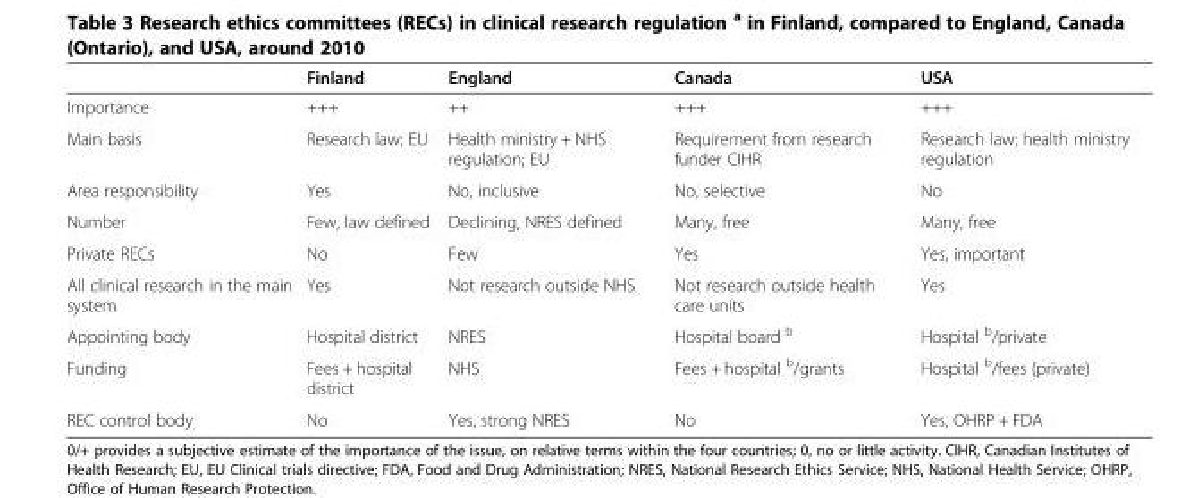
<table><thead><tr><td></td><td>Finland</td><td>England</td><td>Canada</td><td>USA</td></tr></thead><tbody><tr><td>Importance</td><td>+++</td><td>++</td><td>+++</td><td>+++</td></tr><tr><td>Main basis</td><td>Research law; EU</td><td>Health ministry + NHS regulation; EU</td><td>Requirement from research funder CIHR</td><td>Research law; health ministry regulation</td></tr><tr><td>Area responsibility</td><td>Yes</td><td>No, inclusive</td><td>No, selective</td><td>No</td></tr><tr><td>Number</td><td>Few, law defined</td><td>Declining, NRES defined</td><td>Many, free</td><td>Many, free</td></tr><tr><td>Private RECs</td><td>No</td><td>Few</td><td>Yes</td><td>Yes, important</td></tr><tr><td>All clinical research in the main system</td><td>Yes</td><td>Not research outside NHS</td><td>Not research outside health care units</td><td>Yes</td></tr><tr><td>Appointing body</td><td>Hospital district</td><td>NRES</td><td>Hospital board <sup>b</sup></td><td>Hospital <sup>b</sup>/private</td></tr><tr><td>Funding</td><td>Fees + hospital district</td><td>NHS</td><td>Fees + hospital <sup>b</sup>/grants</td><td>Hospital <sup>b</sup>/fees (private)</td></tr><tr><td>REC control body</td><td>No</td><td>Yes, strong NRES</td><td>No</td><td>Yes, OHRP + FDA</td></tr></tbody></table>